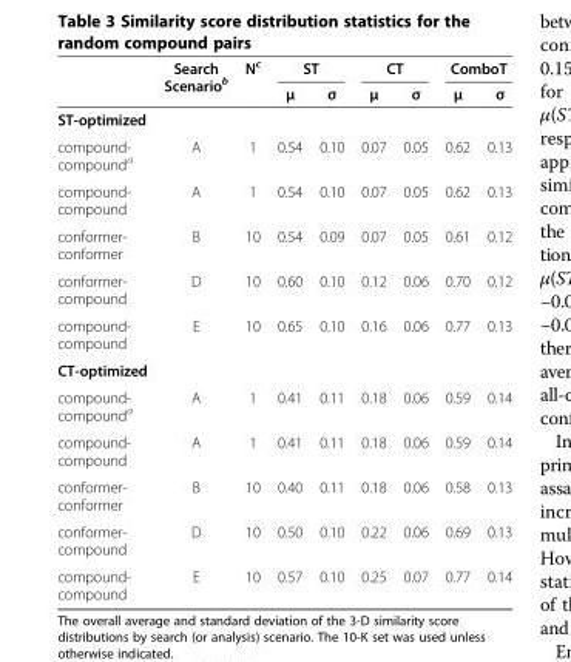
<table><thead><tr><td rowspan="2"></td><td rowspan="2">Search Scenario<sup>b</sup></td><td rowspan="2">N<sup>c</sup></td><td colspan="2">ST</td><td colspan="2">CT</td><td colspan="2">ComboT</td></tr><tr><td>μ</td><td>σ</td><td>μ</td><td>σ</td><td>μ</td><td>σ</td></tr></thead><tbody><tr><td colspan="9">ST-optimized</td></tr><tr><td>compound- compound<sup>a</sup></td><td>A</td><td>1</td><td>0.54</td><td>0.10</td><td>0.07</td><td>0.05</td><td>0.62</td><td>0.13</td></tr><tr><td>compound- compound</td><td>A</td><td>1</td><td>0.54</td><td>0.10</td><td>0.07</td><td>0.05</td><td>0.62</td><td>0.13</td></tr><tr><td>conformer- conformer</td><td>B</td><td>10</td><td>0.54</td><td>0.09</td><td>0.07</td><td>0.05</td><td>0.61</td><td>0.12</td></tr><tr><td>conformer- compound</td><td>D</td><td>10</td><td>0.60</td><td>0.10</td><td>0.12</td><td>0.06</td><td>0.70</td><td>0.12</td></tr><tr><td>compound- compound</td><td>E</td><td>10</td><td>0.65</td><td>0.10</td><td>0.16</td><td>0.06</td><td>0.77</td><td>0.13</td></tr><tr><td colspan="9">CT-optimized</td></tr><tr><td>compound- compound<sup>a</sup></td><td>A</td><td>1</td><td>0.41</td><td>0.11</td><td>0.18</td><td>0.06</td><td>0.59</td><td>0.14</td></tr><tr><td>compound- compound</td><td>A</td><td>1</td><td>0.41</td><td>0.11</td><td>0.18</td><td>0.06</td><td>0.59</td><td>0.14</td></tr><tr><td>conformer- conformer</td><td>B</td><td>10</td><td>0.40</td><td>0.11</td><td>0.18</td><td>0.06</td><td>0.58</td><td>0.13</td></tr><tr><td>conformer- compound</td><td>D</td><td>10</td><td>0.50</td><td>0.10</td><td>0.22</td><td>0.06</td><td>0.69</td><td>0.13</td></tr><tr><td>compound- compound</td><td>E</td><td>10</td><td>0.57</td><td>0.10</td><td>0.25</td><td>0.07</td><td>0.77</td><td>0.14</td></tr></tbody></table>